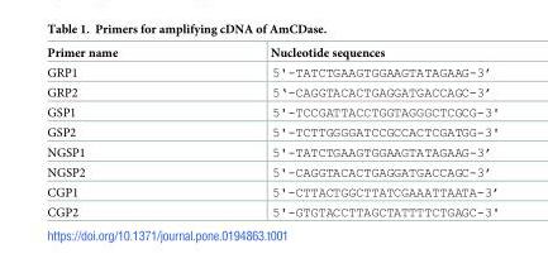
<table><thead><tr><td>Primer name</td><td>Nucleotide sequences</td></tr></thead><tbody><tr><td>GRP1</td><td>5&#x27;-TATCTGAAGTGGAAGTATAGAAG-3’</td></tr><tr><td>GRP2</td><td>5‘-CAGGTACACTGAGGATGACCAGC-3’</td></tr><tr><td>GSP1</td><td>5&#x27;-TCCGATTACCTGGTAGGGCTCGCG-3&#x27;</td></tr><tr><td>GSP2</td><td>5&#x27;-TCTTGGGGATCCGCCACTCGATGG-3&#x27;</td></tr><tr><td>NGSP1</td><td>5&#x27;-TATCTGAAGTGGAAGTATAGAAG-3’</td></tr><tr><td>NGSP2</td><td>5&#x27;-CAGGTACACTGAGGATGACCAGC-3’</td></tr><tr><td>CGP1</td><td>5&#x27;-CTTACTGGCTTATCGAAATTAATA-3’</td></tr><tr><td>CGP2</td><td>5&#x27;-GTGTACCTTAGCTATTTTCTGAGC-3&#x27;</td></tr></tbody></table>